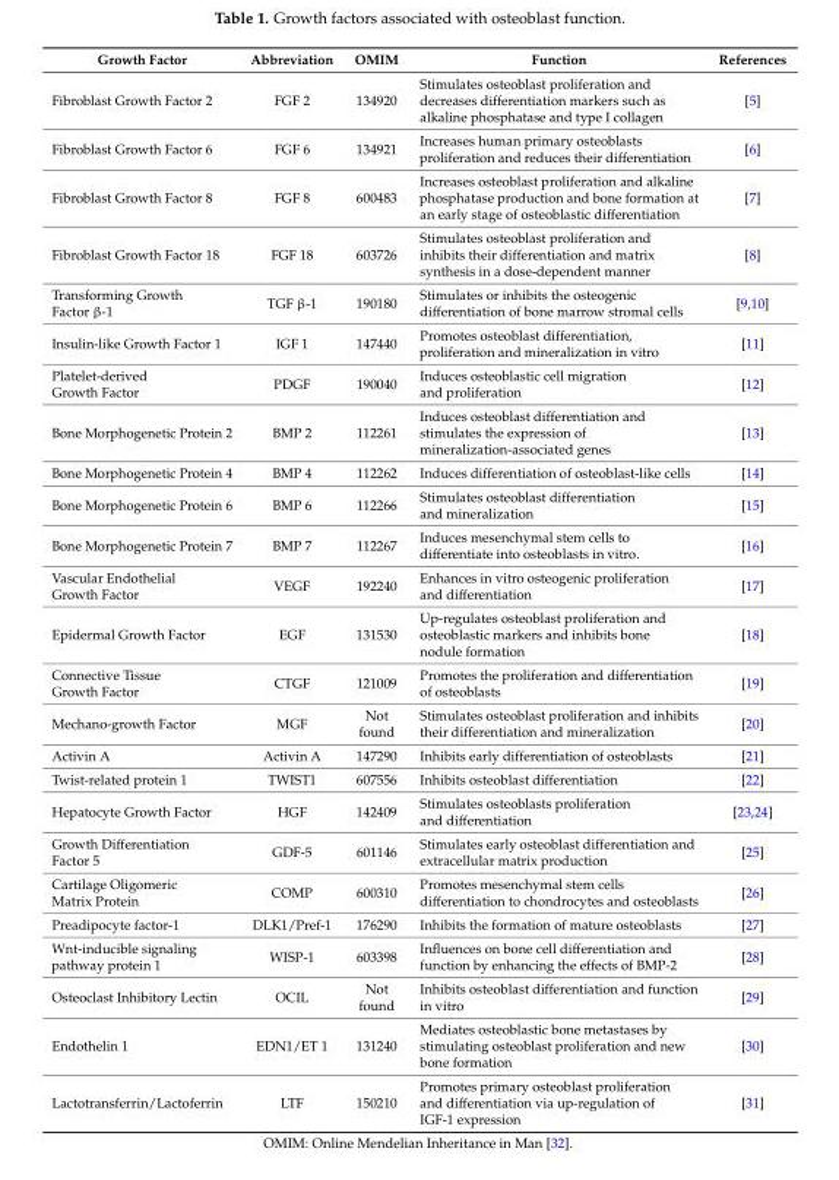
<table><thead><tr><td>Growth Factor</td><td>Abbreviation</td><td>OMIM</td><td>Function</td><td>References</td></tr></thead><tbody><tr><td>Fibroblast Growth Factor 2</td><td>FGF 2</td><td>134920</td><td>Stimulates osteoblast proliferation and decreases differentiation markers such as alkaline phosphatase and type I collagen</td><td>[5]</td></tr><tr><td>Fibroblast Growth Factor 6</td><td>FGF 6</td><td>134921</td><td>Increases human primary osteoblasts proliferation and reduces their differentiation</td><td>[6]</td></tr><tr><td>Fibroblast Growth Factor 8</td><td>FGF 8</td><td>600483</td><td>Increases osteoblast proliferation and alkaline phosphatase production and bone formation at an early stage of osteoblastic differentiation</td><td>[7]</td></tr><tr><td>Fibroblast Growth Factor 18</td><td>FGF 18</td><td>603726</td><td>Stimulates osteoblast proliferation and inhibits their differentiation and matrix synthesis in a dose-dependent manner</td><td>[8]</td></tr><tr><td>Transforming Growth Factor β-1</td><td>TGF β-1</td><td>190180</td><td>Stimulates or inhibits the osteogenic differentiation of bone marrow stromal cells</td><td>[9,10]</td></tr><tr><td>Insulin-like Growth Factor 1</td><td>IGF 1</td><td>147440</td><td>Promotes osteoblast differentiation, proliferation and mineralization in vitro</td><td>[11]</td></tr><tr><td>Platelet-derived Growth Factor</td><td>PDGF</td><td>190040</td><td>Induces osteoblastic cell migration and proliferation</td><td>[12]</td></tr><tr><td>Bone Morphogenetic Protein 2</td><td>BMP 2</td><td>112261</td><td>Induces osteoblast differentiation and stimulates the expression of mineralization-associated genes</td><td>[13]</td></tr><tr><td>Bone Morphogenetic Protein 4</td><td>BMP 4</td><td>112262</td><td>Induces differentiation of osteoblast-like cells</td><td>[14]</td></tr><tr><td>Bone Morphogenetic Protein 6</td><td>BMP 6</td><td>112266</td><td>Stimulates osteoblast differentiation and mineralization</td><td>[15]</td></tr><tr><td>Bone Morphogenetic Protein 7</td><td>BMP 7</td><td>112267</td><td>Induces mesenchymal stem cells to differentiate into osteoblasts in vitro.</td><td>[16]</td></tr><tr><td>Vascular Endothelial Growth Factor</td><td>VEGF</td><td>192240</td><td>Enhances in vitro osteogenic proliferation and differentiation</td><td>[17]</td></tr><tr><td>Epidermal Growth Factor</td><td>EGF</td><td>131530</td><td>Up-regulates osteoblast proliferation and osteoblastic markers and inhibits bone nodule formation</td><td>[18]</td></tr><tr><td>Connective Tissue Growth Factor</td><td>CTGF</td><td>121009</td><td>Promotes the proliferation and differentiation of osteoblasts</td><td>[19]</td></tr><tr><td>Mechano-growth Factor</td><td>MGF</td><td>Not found</td><td>Stimulates osteoblast proliferation and inhibits their differentiation and mineralization</td><td>[20]</td></tr><tr><td>Activin A</td><td>Activin A</td><td>147290</td><td>Inhibits early differentiation of osteoblasts</td><td>[21]</td></tr><tr><td>Twist-related protein 1</td><td>TWIST1</td><td>607556</td><td>Inhibits osteoblast differentiation</td><td>[22]</td></tr><tr><td>Hepatocyte Growth Factor</td><td>HGF</td><td>142409</td><td>Stimulates osteoblasts proliferation and differentiation</td><td>[23,24]</td></tr><tr><td>Growth Differentiation Factor 5</td><td>GDF-5</td><td>601146</td><td>Stimulates early osteoblast differentiation and extracellular matrix production</td><td>[25]</td></tr><tr><td>Cartilage Oligomeric Matrix Protein</td><td>COMP</td><td>600310</td><td>Promotes mesenchymal stem cells differentiation to chondrocytes and osteoblasts</td><td>[26]</td></tr><tr><td>Preadipocyte factor-1</td><td>DLK1/Pref-1</td><td>176290</td><td>Inhibits the formation of mature osteoblasts</td><td>[27]</td></tr><tr><td>Wnt-inducible signaling pathway protein 1</td><td>WISP-1</td><td>603398</td><td>Influences on bone cell differentiation and function by enhancing the effects of BMP-2</td><td>[28]</td></tr><tr><td>Osteoclast Inhibitory Lectin</td><td>OCIL</td><td>Not found</td><td>Inhibits osteoblast differentiation and function in vitro</td><td>[29]</td></tr><tr><td>Endothelin 1</td><td>EDN1/ET 1</td><td>131240</td><td>Mediates osteoblastic bone metastases by stimulating osteoblast proliferation and new bone formation</td><td>[30]</td></tr><tr><td>Lactotransferrin/Lactoferrin</td><td>LTF</td><td>150210</td><td>Promotes primary osteoblast proliferation and differentiation via up-regulation of IGF-1 expression</td><td>[31]</td></tr></tbody></table>